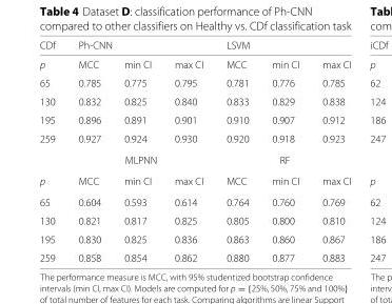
<table><thead><tr><td rowspan="2">CDf p</td><td colspan="3">Ph-CNN</td><td colspan="3">LSVM</td></tr><tr><td>MCC</td><td>min CI</td><td>max CI</td><td>MCC</td><td>min CI</td><td>max CI</td></tr></thead><tbody><tr><td>65</td><td>0.785</td><td>0.775</td><td>0.795</td><td>0.781</td><td>0.776</td><td>0.785</td></tr><tr><td>130</td><td>0.832</td><td>0.825</td><td>0.840</td><td>0.833</td><td>0.829</td><td>0.838</td></tr><tr><td>195</td><td>0.896</td><td>0.891</td><td>0.901</td><td>0.910</td><td>0.907</td><td>0.912</td></tr><tr><td rowspan="2">259</td><td>0.927</td><td>0.924</td><td>0.930</td><td>0.920</td><td>0.918</td><td>0.923</td></tr><tr><td colspan="3">MLPNN</td><td colspan="3">RF</td></tr><tr><td>p</td><td>MCC</td><td>min CI</td><td>max CI</td><td>MCC</td><td>min CI</td><td>max CI</td></tr><tr><td>65</td><td>0.604</td><td>0.593</td><td>0.614</td><td>0.764</td><td>0.760</td><td>0.769</td></tr><tr><td>130</td><td>0.821</td><td>0.817</td><td>0.825</td><td>0.805</td><td>0.800</td><td>0.810</td></tr><tr><td>195</td><td>0.830</td><td>0.825</td><td>0.836</td><td>0.863</td><td>0.860</td><td>0.867</td></tr><tr><td>259</td><td>0.858</td><td>0.854</td><td>0.862</td><td>0.880</td><td>0.877</td><td>0.883</td></tr></tbody></table>